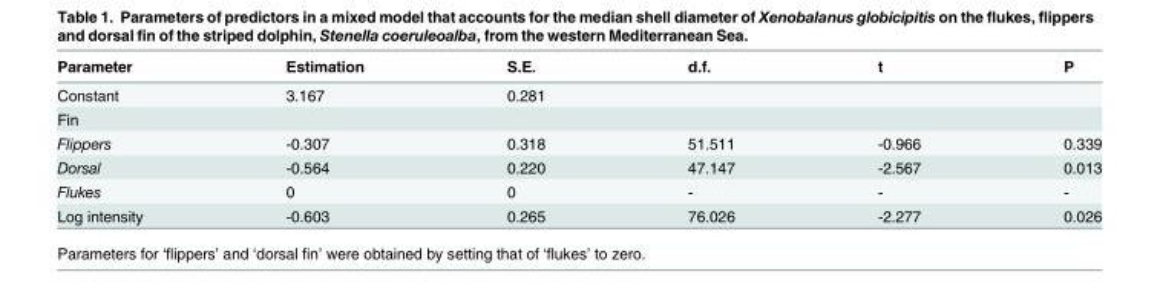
<table><thead><tr><td>Parameter</td><td>Estimation</td><td>S.E.</td><td>d.f.</td><td>t</td><td>P</td></tr></thead><tbody><tr><td>Constant</td><td>3.167</td><td>0.281</td><td></td><td></td><td></td></tr><tr><td colspan="6">Fin</td></tr><tr><td>Flippers</td><td>-0.307</td><td>0.318</td><td>51.511</td><td>-0.966</td><td>0.339</td></tr><tr><td>Dorsal</td><td>-0.564</td><td>0.220</td><td>47.147</td><td>-2.567</td><td>0.013</td></tr><tr><td>Flukes</td><td>0</td><td>0</td><td>-</td><td>-</td><td>-</td></tr><tr><td>Log intensity</td><td>-0.603</td><td>0.265</td><td>76.026</td><td>-2.277</td><td>0.026</td></tr></tbody></table>